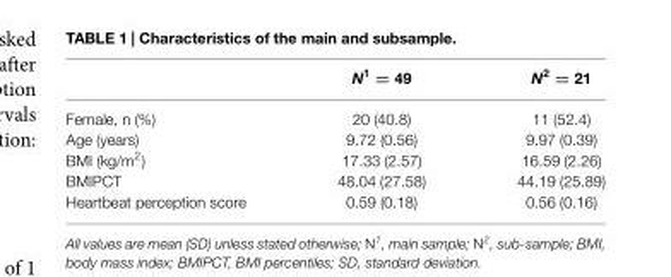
<table><thead><tr><td></td><td>N<sup>1</sup> = 49</td><td>N<sup>2</sup> = 21</td></tr></thead><tbody><tr><td>Female, n (%)</td><td>20 (40.8)</td><td>11 (52.4)</td></tr><tr><td>Age (years)</td><td>9.72 (0.56)</td><td>9.97 (0.39)</td></tr><tr><td>BMI (kg/m<sup>2</sup>)</td><td>17.33 (2.57)</td><td>16.59 (2.26)</td></tr><tr><td>BMIPCT</td><td>48.04 (27.58)</td><td>44.19 (25.89)</td></tr><tr><td>Heartbeat perception score</td><td>0.59 (0.18)</td><td>0.56 (0.16)</td></tr></tbody></table>